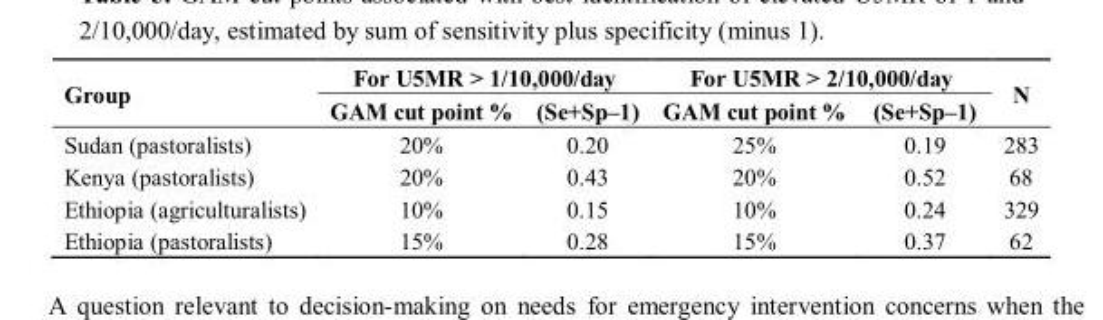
<table><thead><tr><td rowspan="2">Group</td><td colspan="2">For U5MR &gt; 1/10,000/day</td><td colspan="2">For U5MR &gt; 2/10,000/day</td><td rowspan="2">N</td></tr><tr><td>GAM cut point %</td><td>(Se+Sp–1)</td><td>GAM cut point %</td><td>(Se+Sp–1)</td></tr></thead><tbody><tr><td>Sudan (pastoralists)</td><td>20%</td><td>0.20</td><td>25%</td><td>0.19</td><td>283</td></tr><tr><td>Kenya (pastoralists)</td><td>20%</td><td>0.43</td><td>20%</td><td>0.52</td><td>68</td></tr><tr><td>Ethiopia (agriculturalists)</td><td>10%</td><td>0.15</td><td>10%</td><td>0.24</td><td>329</td></tr><tr><td>Ethiopia (pastoralists)</td><td>15%</td><td>0.28</td><td>15%</td><td>0.37</td><td>62</td></tr></tbody></table>